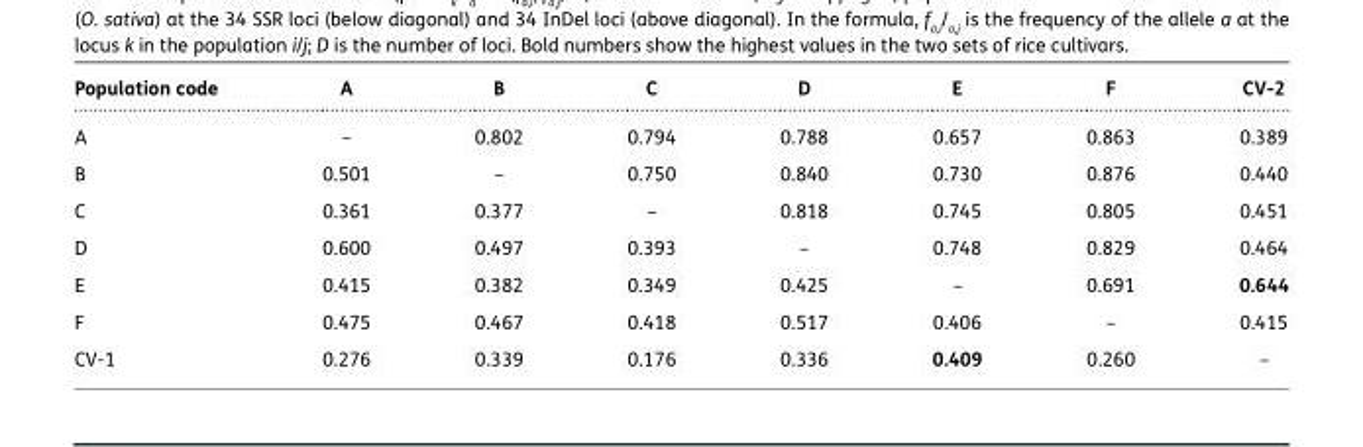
<table><thead><tr><td>Population code</td><td>A</td><td>B</td><td>C</td><td>D</td><td>E</td><td>F</td><td>CV-2</td></tr></thead><tbody><tr><td>A</td><td>–</td><td>0.802</td><td>0.794</td><td>0.788</td><td>0.657</td><td>0.863</td><td>0.389</td></tr><tr><td>B</td><td>0.501</td><td>–</td><td>0.750</td><td>0.840</td><td>0.730</td><td>0.876</td><td>0.440</td></tr><tr><td>C</td><td>0.361</td><td>0.377</td><td>–</td><td>0.818</td><td>0.745</td><td>0.805</td><td>0.451</td></tr><tr><td>D</td><td>0.600</td><td>0.497</td><td>0.393</td><td>–</td><td>0.748</td><td>0.829</td><td>0.464</td></tr><tr><td>E</td><td>0.415</td><td>0.382</td><td>0.349</td><td>0.425</td><td>–</td><td>0.691</td><td>0.644</td></tr><tr><td>F</td><td>0.475</td><td>0.467</td><td>0.418</td><td>0.517</td><td>0.406</td><td>–</td><td>0.415</td></tr><tr><td>CV-1</td><td>0.276</td><td>0.339</td><td>0.176</td><td>0.336</td><td>0.409</td><td>0.260</td><td>–</td></tr></tbody></table>